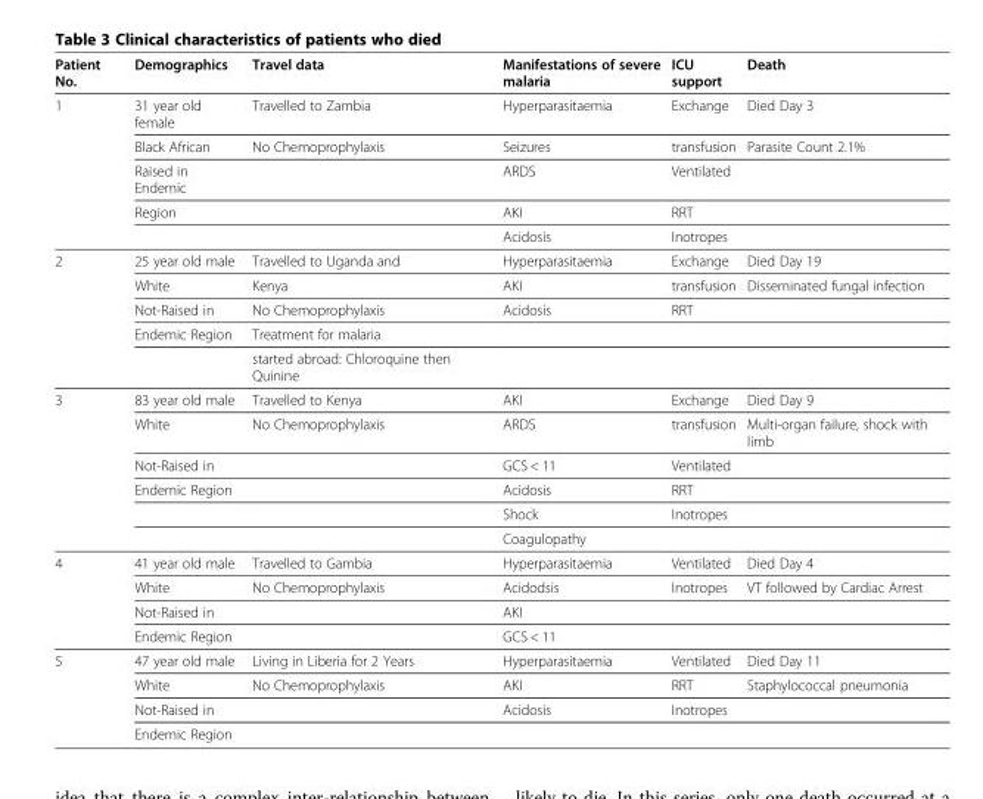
<table><thead><tr><td>Patient No.</td><td>Demographics</td><td>Travel data</td><td>Manifestations of severe malaria</td><td>ICU support</td><td>Death</td></tr></thead><tbody><tr><td rowspan="5">1</td><td>31 year old female</td><td>Travelled to Zambia</td><td>Hyperparasitaemia</td><td>Exchange</td><td>Died Day 3</td></tr><tr><td>Black African</td><td>No Chemoprophylaxis</td><td>Seizures</td><td>transfusion</td><td>Parasite Count 2.1%</td></tr><tr><td>Raised in Endemic</td><td></td><td>ARDS</td><td>Ventilated</td><td></td></tr><tr><td>Region</td><td></td><td>AKI</td><td>RRT</td><td></td></tr><tr><td></td><td></td><td>Acidosis</td><td>Inotropes</td><td></td></tr><tr><td rowspan="5">2</td><td>25 year old male</td><td>Travelled to Uganda and</td><td>Hyperparasitaemia</td><td>Exchange</td><td>Died Day 19</td></tr><tr><td>White</td><td>Kenya</td><td>AKI</td><td>transfusion</td><td>Disseminated fungal infection</td></tr><tr><td>Not-Raised in</td><td>No Chemoprophylaxis</td><td>Acidosis</td><td>RRT</td><td></td></tr><tr><td>Endemic Region</td><td>Treatment for malaria</td><td></td><td></td><td></td></tr><tr><td></td><td>started abroad: Chloroquine then Quinine</td><td></td><td></td><td></td></tr><tr><td rowspan="6">3</td><td>83 year old male</td><td>Travelled to Kenya</td><td>AKI</td><td>Exchange</td><td>Died Day 9</td></tr><tr><td>White</td><td>No Chemoprophylaxis</td><td>ARDS</td><td>transfusion</td><td>Multi-organ failure, shock with limb</td></tr><tr><td>Not-Raised in</td><td></td><td>GCS &lt; 11</td><td>Ventilated</td><td></td></tr><tr><td>Endemic Region</td><td></td><td>Acidosis</td><td>RRT</td><td></td></tr><tr><td></td><td></td><td>Shock</td><td>Inotropes</td><td></td></tr><tr><td></td><td></td><td>Coagulopathy</td><td></td><td></td></tr><tr><td rowspan="4">4</td><td>41 year old male</td><td>Travelled to Gambia</td><td>Hyperparasitaemia</td><td>Ventilated</td><td>Died Day 4</td></tr><tr><td>White</td><td>No Chemoprophylaxis</td><td>Acidodsis</td><td>Inotropes</td><td>VT followed by Cardiac Arrest</td></tr><tr><td>Not-Raised in</td><td></td><td>AKI</td><td></td><td></td></tr><tr><td>Endemic Region</td><td></td><td>GCS &lt; 11</td><td></td><td></td></tr><tr><td rowspan="4">5</td><td>47 year old male</td><td>Living in Liberia for 2 Years</td><td>Hyperparasitaemia</td><td>Ventilated</td><td>Died Day 11</td></tr><tr><td>White</td><td>No Chemoprophylaxis</td><td>AKI</td><td>RRT</td><td>Staphylococcal pneumonia</td></tr><tr><td>Not-Raised in</td><td></td><td>Acidosis</td><td>Inotropes</td><td></td></tr><tr><td>Endemic Region</td><td></td><td></td><td></td><td></td></tr></tbody></table>